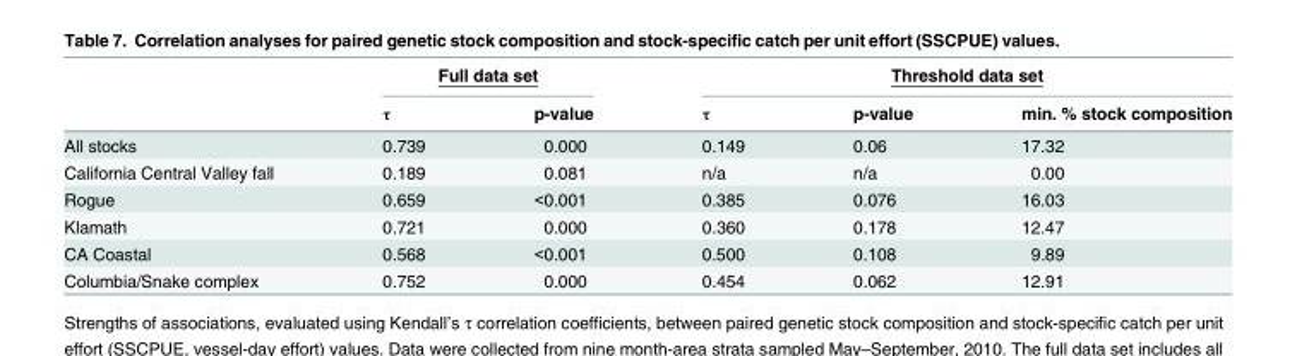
<table><thead><tr><td rowspan="2"></td><td colspan="2">Full data set</td><td colspan="3">Threshold data set</td></tr><tr><td>τ</td><td>p-value</td><td>τ</td><td>p-value</td><td>min. % stock composition</td></tr></thead><tbody><tr><td>All stocks</td><td>0.739</td><td>0.000</td><td>0.149</td><td>0.06</td><td>17.32</td></tr><tr><td>California Central Valley fall</td><td>0.189</td><td>0.081</td><td>n/a</td><td>n/a</td><td>0.00</td></tr><tr><td>Rogue</td><td>0.659</td><td>&lt;0.001</td><td>0.385</td><td>0.076</td><td>16.03</td></tr><tr><td>Klamath</td><td>0.721</td><td>0.000</td><td>0.360</td><td>0.178</td><td>12.47</td></tr><tr><td>CA Coastal</td><td>0.568</td><td>&lt;0.001</td><td>0.500</td><td>0.108</td><td>9.89</td></tr><tr><td>Columbia/Snake complex</td><td>0.752</td><td>0.000</td><td>0.454</td><td>0.062</td><td>12.91</td></tr></tbody></table>